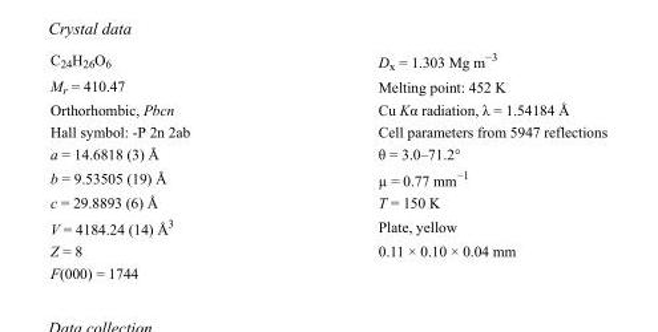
<table><tbody><tr><td>C<sub>24</sub>H<sub>26</sub>O<sub>6</sub></td><td>D<sub>x</sub> = 1.303 Mg m<sup>−3</sup></td></tr><tr><td>M<sub>r</sub> = 410.47</td><td>Melting point: 452 K</td></tr><tr><td>Orthorhombic, Pbcn</td><td>Cu Kα radiation, λ = 1.54184 Å</td></tr><tr><td>Hall symbol: -P 2n 2ab</td><td>Cell parameters from 5947 reflections</td></tr><tr><td>a = 14.6818 (3) Å</td><td>θ = 3.0–71.2°</td></tr><tr><td>b = 9.53505 (19) Å</td><td>µ = 0.77 mm<sup>−1</sup></td></tr><tr><td>c = 29.8893 (6) Å</td><td>T = 150 K</td></tr><tr><td>V = 4184.24 (14) Å<sup>3</sup></td><td>Plate, yellow</td></tr><tr><td>Z = 8</td><td>0.11 × 0.10 × 0.04 mm</td></tr><tr><td>F(000) = 1744</td><td></td></tr></tbody></table>